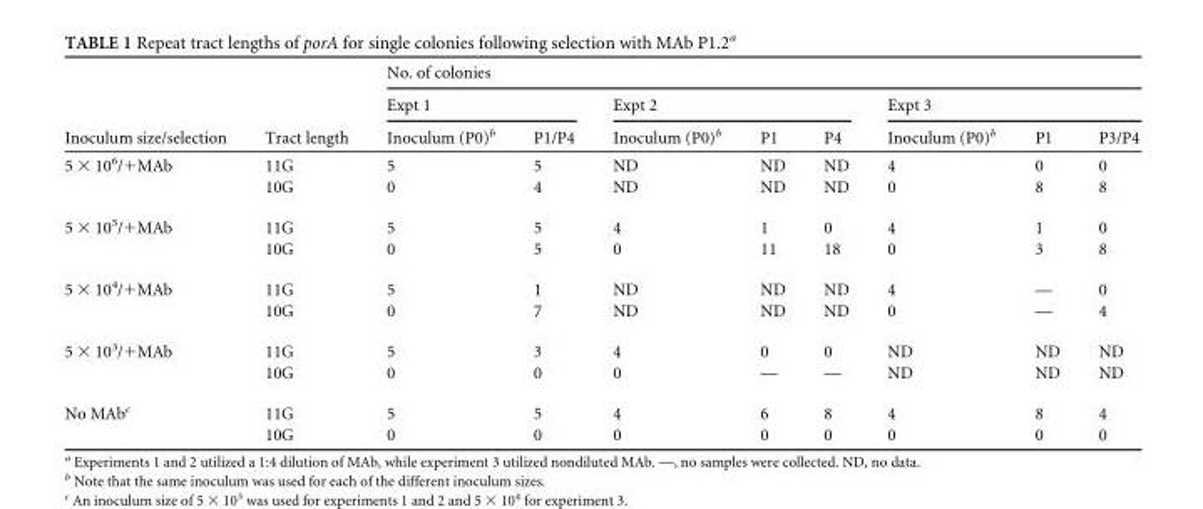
<table><thead><tr><td rowspan="3">Inoculum size/selection</td><td rowspan="3">Tract length</td><td colspan="8">No. of colonies</td></tr><tr><td colspan="2">Expt 1</td><td colspan="3">Expt 2</td><td colspan="3">Expt 3</td></tr><tr><td>Inoculum (P0)<sup>b</sup></td><td>P1/P4</td><td>Inoculum (P0)<sup>b</sup></td><td>P1</td><td>P4</td><td>Inoculum (P0)<sup>b</sup></td><td>P1</td><td>P3/P4</td></tr></thead><tbody><tr><td rowspan="2">5 × 10<sup>6</sup>/+MAb</td><td>11G</td><td>5</td><td>5</td><td>ND</td><td>ND</td><td>ND</td><td>4</td><td>0</td><td>0</td></tr><tr><td>10G</td><td>0</td><td>4</td><td>ND</td><td>ND</td><td>ND</td><td>0</td><td>8</td><td>8</td></tr><tr><td rowspan="2">5 × 10<sup>5</sup>/+MAb</td><td>11G</td><td>5</td><td>5</td><td>4</td><td>1</td><td>0</td><td>4</td><td>1</td><td>0</td></tr><tr><td>10G</td><td>0</td><td>5</td><td>0</td><td>11</td><td>18</td><td>0</td><td>3</td><td>8</td></tr><tr><td rowspan="2">5 × 10<sup>4</sup>/+MAb</td><td>11G</td><td>5</td><td>1</td><td>ND</td><td>ND</td><td>ND</td><td>4</td><td>—</td><td>0</td></tr><tr><td>10G</td><td>0</td><td>7</td><td>ND</td><td>ND</td><td>ND</td><td>0</td><td>—</td><td>4</td></tr><tr><td rowspan="2">5 × 10<sup>3</sup>/+MAb</td><td>11G</td><td>5</td><td>3</td><td>4</td><td>0</td><td>0</td><td>ND</td><td>ND</td><td>ND</td></tr><tr><td>10G</td><td>0</td><td>0</td><td>0</td><td>—</td><td>—</td><td>ND</td><td>ND</td><td>ND</td></tr><tr><td rowspan="2">No MAb<sup>c</sup></td><td>11G</td><td>5</td><td>5</td><td>4</td><td>6</td><td>8</td><td>4</td><td>8</td><td>4</td></tr><tr><td>10G</td><td>0</td><td>0</td><td>0</td><td>0</td><td>0</td><td>0</td><td>0</td><td>0</td></tr></tbody></table>